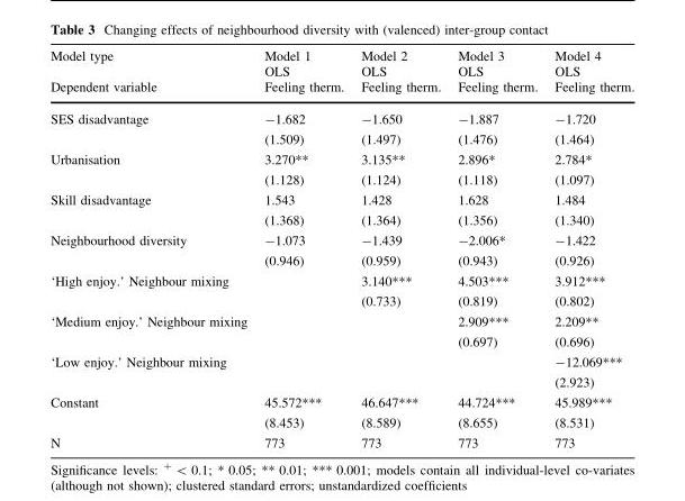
<table><thead><tr><td rowspan="3">Model type Dependent variable</td><td rowspan="3">Model 1 OLS Feeling therm.</td><td rowspan="3">Model 2 OLS Feeling therm.</td><td rowspan="3">Model 3 OLS Feeling therm.</td><td rowspan="3">Model 4 OLS Feeling therm.</td></tr><tr></tr><tr></tr></thead><tbody><tr><td rowspan="2">SES disadvantage</td><td>-1.682</td><td>-1.650</td><td>-1.887</td><td>-1.720</td></tr><tr><td>(1.509)</td><td>(1.497)</td><td>(1.476)</td><td>(1.464)</td></tr><tr><td rowspan="2">Urbanisation</td><td>3.270**</td><td>3.135**</td><td>2.896*</td><td>2.784*</td></tr><tr><td>(1.128)</td><td>(1.124)</td><td>(1.118)</td><td>(1.097)</td></tr><tr><td rowspan="2">Skill disadvantage</td><td>1.543</td><td>1.428</td><td>1.628</td><td>1.484</td></tr><tr><td>(1.368)</td><td>(1.364)</td><td>(1.356)</td><td>(1.340)</td></tr><tr><td rowspan="2">Neighbourhood diversity</td><td>-1.073</td><td>-1.439</td><td>-2.006*</td><td>-1.422</td></tr><tr><td>(0.946)</td><td>(0.959)</td><td>(0.943)</td><td>(0.926)</td></tr><tr><td rowspan="2">‘High enjoy.’ Neighbour mixing</td><td></td><td>3.140***</td><td>4.503***</td><td>3.912***</td></tr><tr><td></td><td>(0.733)</td><td>(0.819)</td><td>(0.802)</td></tr><tr><td rowspan="2">‘Medium enjoy.’ Neighbour mixing</td><td></td><td></td><td>2.909***</td><td>2.209**</td></tr><tr><td></td><td></td><td>(0.697)</td><td>(0.696)</td></tr><tr><td rowspan="2">‘Low enjoy.’ Neighbour mixing</td><td></td><td></td><td></td><td>-12.069***</td></tr><tr><td></td><td></td><td></td><td>(2.923)</td></tr><tr><td rowspan="2">Constant</td><td>45.572***</td><td>46.647***</td><td>44.724***</td><td>45.989***</td></tr><tr><td>(8.453)</td><td>(8.589)</td><td>(8.655)</td><td>(8.531)</td></tr><tr><td>N</td><td>773</td><td>773</td><td>773</td><td>773</td></tr></tbody></table>